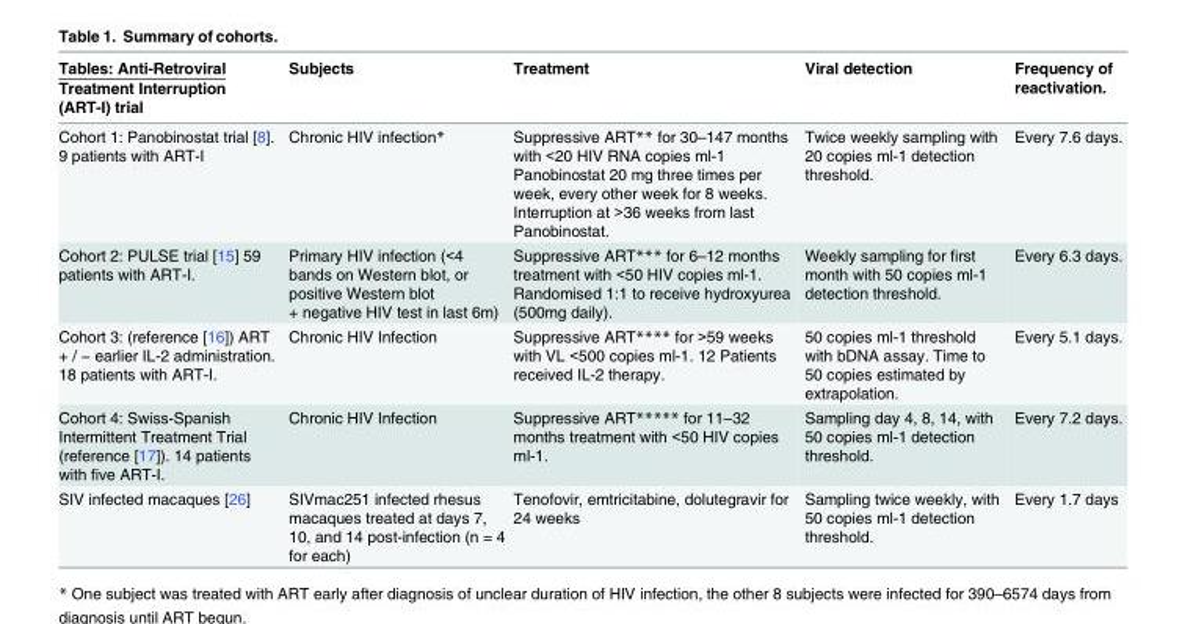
<table><thead><tr><td>Tables: Anti-Retroviral Treatment Interruption (ART-I) trial</td><td>Subjects</td><td>Treatment</td><td>Viral detection</td><td>Frequency of reactivation.</td></tr></thead><tbody><tr><td>Cohort 1: Panobinostat trial [8]. 9 patients with ART-I</td><td>Chronic HIV infection*</td><td>Suppressive ART** for 30–147 months with &lt;20 HIV RNA copies ml-1 Panobinostat 20 mg three times per week, every other week for 8 weeks. Interruption at &gt;36 weeks from last Panobinostat.</td><td>Twice weekly sampling with 20 copies ml-1 detection threshold.</td><td>Every 7.6 days.</td></tr><tr><td>Cohort 2: PULSE trial [15] 59 patients with ART-I.</td><td>Primary HIV infection (&lt;4 bands on Western blot, or positive Western blot + negative HIV test in last 6m)</td><td>Suppressive ART*** for 6–12 months treatment with &lt;50 HIV copies ml-1. Randomised 1:1 to receive hydroxyurea (500mg daily).</td><td>Weekly sampling for first month with 50 copies ml-1 detection threshold.</td><td>Every 6.3 days.</td></tr><tr><td>Cohort 3: (reference [16]) ART + / − earlier IL-2 administration. 18 patients with ART-I.</td><td>Chronic HIV Infection</td><td>Suppressive ART**** for &gt;59 weeks with VL &lt;500 copies ml-1. 12 Patients received IL-2 therapy.</td><td>50 copies ml-1 threshold with bDNA assay. Time to 50 copies estimated by extrapolation.</td><td>Every 5.1 days.</td></tr><tr><td>Cohort 4: Swiss-Spanish Intermittent Treatment Trial (reference [17]). 14 patients with five ART-I.</td><td>Chronic HIV Infection</td><td>Suppressive ART***** for 11–32 months treatment with &lt;50 HIV copies ml-1.</td><td>Sampling day 4, 8, 14, with 50 copies ml-1 detection threshold.</td><td>Every 7.2 days.</td></tr><tr><td>SIV infected macaques [26]</td><td>SIVmac251 infected rhesus macaques treated at days 7, 10, and 14 post-infection (n = 4 for each)</td><td>Tenofovir, emtricitabine, dolutegravir for 24 weeks</td><td>Sampling twice weekly, with 50 copies ml-1 detection threshold.</td><td>Every 1.7 days</td></tr></tbody></table>